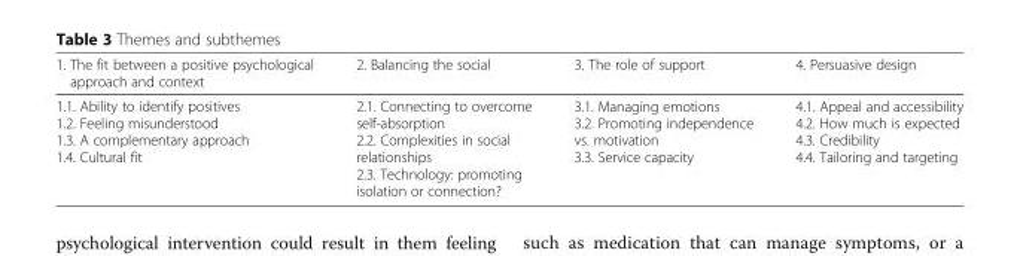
<table><thead><tr><td>1. The fit between a positive psychological approach and context</td><td>2. Balancing the social</td><td>3. The role of support</td><td>4. Persuasive design</td></tr></thead><tbody><tr><td>1.1. Ability to identify positives 1.2. Feeling misunderstood 1.3. A complementary approach 1.4. Cultural fit</td><td>2.1. Connecting to overcome self-absorption 2.2. Complexities in social relationships 2.3. Technology: promoting isolation or connection?</td><td>3.1. Managing emotions 3.2. Promoting independence vs. motivation 3.3. Service capacity</td><td>4.1. Appeal and accessibility 4.2. How much is expected 4.3. Credibility 4.4. Tailoring and targeting</td></tr></tbody></table>